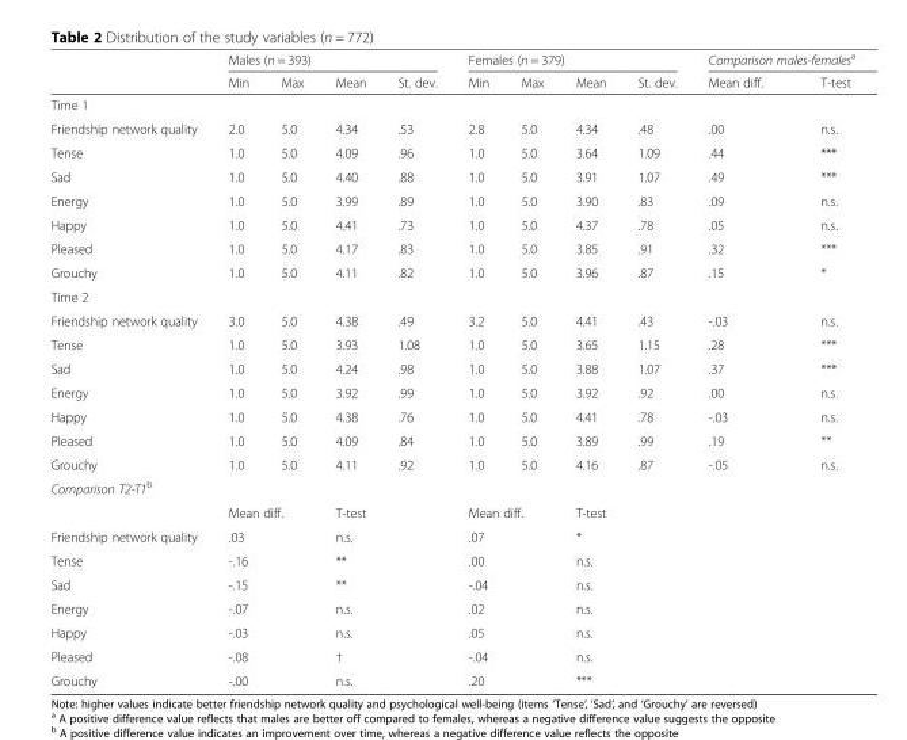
<table><thead><tr><td rowspan="2"></td><td colspan="4">Males (n = 393)</td><td colspan="4">Females (n = 379)</td><td colspan="2">Comparison males-females<sup>a</sup></td></tr><tr><td>Min</td><td>Max</td><td>Mean</td><td>St. dev.</td><td>Min</td><td>Max</td><td>Mean</td><td>St. dev.</td><td>Mean diff.</td><td>T-test</td></tr></thead><tbody><tr><td colspan="11">Time 1</td></tr><tr><td>Friendship network quality</td><td>2.0</td><td>5.0</td><td>4.34</td><td>.53</td><td>2.8</td><td>5.0</td><td>4.34</td><td>.48</td><td>.00</td><td>n.s.</td></tr><tr><td>Tense</td><td>1.0</td><td>5.0</td><td>4.09</td><td>.96</td><td>1.0</td><td>5.0</td><td>3.64</td><td>1.09</td><td>.44</td><td>***</td></tr><tr><td>Sad</td><td>1.0</td><td>5.0</td><td>4.40</td><td>.88</td><td>1.0</td><td>5.0</td><td>3.91</td><td>1.07</td><td>.49</td><td>***</td></tr><tr><td>Energy</td><td>1.0</td><td>5.0</td><td>3.99</td><td>.89</td><td>1.0</td><td>5.0</td><td>3.90</td><td>.83</td><td>.09</td><td>n.s.</td></tr><tr><td>Happy</td><td>1.0</td><td>5.0</td><td>4.41</td><td>.73</td><td>1.0</td><td>5.0</td><td>4.37</td><td>.78</td><td>.05</td><td>n.s.</td></tr><tr><td>Pleased</td><td>1.0</td><td>5.0</td><td>4.17</td><td>.83</td><td>1.0</td><td>5.0</td><td>3.85</td><td>.91</td><td>.32</td><td>***</td></tr><tr><td>Grouchy</td><td>1.0</td><td>5.0</td><td>4.11</td><td>.82</td><td>1.0</td><td>5.0</td><td>3.96</td><td>.87</td><td>.15</td><td>*</td></tr><tr><td colspan="11">Time 2</td></tr><tr><td>Friendship network quality</td><td>3.0</td><td>5.0</td><td>4.38</td><td>.49</td><td>3.2</td><td>5.0</td><td>4.41</td><td>.43</td><td>-.03</td><td>n.s.</td></tr><tr><td>Tense</td><td>1.0</td><td>5.0</td><td>3.93</td><td>1.08</td><td>1.0</td><td>5.0</td><td>3.65</td><td>1.15</td><td>.28</td><td>***</td></tr><tr><td>Sad</td><td>1.0</td><td>5.0</td><td>4.24</td><td>.98</td><td>1.0</td><td>5.0</td><td>3.88</td><td>1.07</td><td>.37</td><td>***</td></tr><tr><td>Energy</td><td>1.0</td><td>5.0</td><td>3.92</td><td>.99</td><td>1.0</td><td>5.0</td><td>3.92</td><td>.92</td><td>.00</td><td>n.s.</td></tr><tr><td>Happy</td><td>1.0</td><td>5.0</td><td>4.38</td><td>.76</td><td>1.0</td><td>5.0</td><td>4.41</td><td>.78</td><td>-.03</td><td>n.s.</td></tr><tr><td>Pleased</td><td>1.0</td><td>5.0</td><td>4.09</td><td>.84</td><td>1.0</td><td>5.0</td><td>3.89</td><td>.99</td><td>.19</td><td>**</td></tr><tr><td>Grouchy</td><td>1.0</td><td>5.0</td><td>4.11</td><td>.92</td><td>1.0</td><td>5.0</td><td>4.16</td><td>.87</td><td>-.05</td><td>n.s.</td></tr><tr><td colspan="11">Comparison T2-T1<sup>b</sup></td></tr><tr><td></td><td colspan="2">Mean diff.</td><td colspan="2">T-test</td><td colspan="2">Mean diff.</td><td colspan="2">T-test</td><td></td><td></td></tr><tr><td>Friendship network quality</td><td colspan="2">.03</td><td colspan="2">n.s.</td><td colspan="2">.07</td><td colspan="2">*</td><td></td><td></td></tr><tr><td>Tense</td><td colspan="2">-.16</td><td colspan="2">**</td><td colspan="2">.00</td><td colspan="2">n.s.</td><td></td><td></td></tr><tr><td>Sad</td><td colspan="2">-.15</td><td colspan="2">**</td><td colspan="2">-.04</td><td colspan="2">n.s.</td><td></td><td></td></tr><tr><td>Energy</td><td colspan="2">-.07</td><td colspan="2">n.s.</td><td colspan="2">.02</td><td colspan="2">n.s.</td><td></td><td></td></tr><tr><td>Happy</td><td colspan="2">-.03</td><td colspan="2">n.s.</td><td colspan="2">.05</td><td colspan="2">n.s.</td><td></td><td></td></tr><tr><td>Pleased</td><td colspan="2">-.08</td><td colspan="2">†</td><td colspan="2">-.04</td><td colspan="2">n.s.</td><td></td><td></td></tr><tr><td>Grouchy</td><td colspan="2">-.00</td><td colspan="2">n.s.</td><td colspan="2">.20</td><td colspan="2">***</td><td></td><td></td></tr></tbody></table>